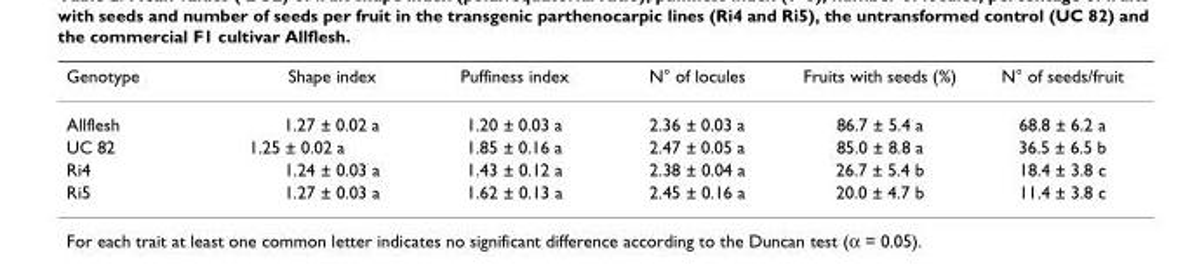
<table><thead><tr><td>Genotype</td><td>Shape index</td><td>Puffiness index</td><td>N° of locules</td><td>Fruits with seeds (%)</td><td>N° of seeds/fruit</td></tr></thead><tbody><tr><td>Allflesh</td><td>1.27 ± 0.02 a</td><td>1.20 ± 0.03 a</td><td>2.36 ± 0.03 a</td><td>86.7 ± 5.4 a</td><td>68.8 ± 6.2 a</td></tr><tr><td>UC 82</td><td>1.25 ± 0.02 a</td><td>1.85 ± 0.16 a</td><td>2.47 ± 0.05 a</td><td>85.0 ± 8.8 a</td><td>36.5 ± 6.5 b</td></tr><tr><td>Ri4</td><td>1.24 ± 0.03 a</td><td>1.43 ± 0.12 a</td><td>2.38 ± 0.04 a</td><td>26.7 ± 5.4 b</td><td>18.4 ± 3.8 c</td></tr><tr><td>Ri5</td><td>1.27 ± 0.03 a</td><td>1.62 ± 0.13 a</td><td>2.45 ± 0.16 a</td><td>20.0 ± 4.7 b</td><td>11.4 ± 3.8 c</td></tr></tbody></table>